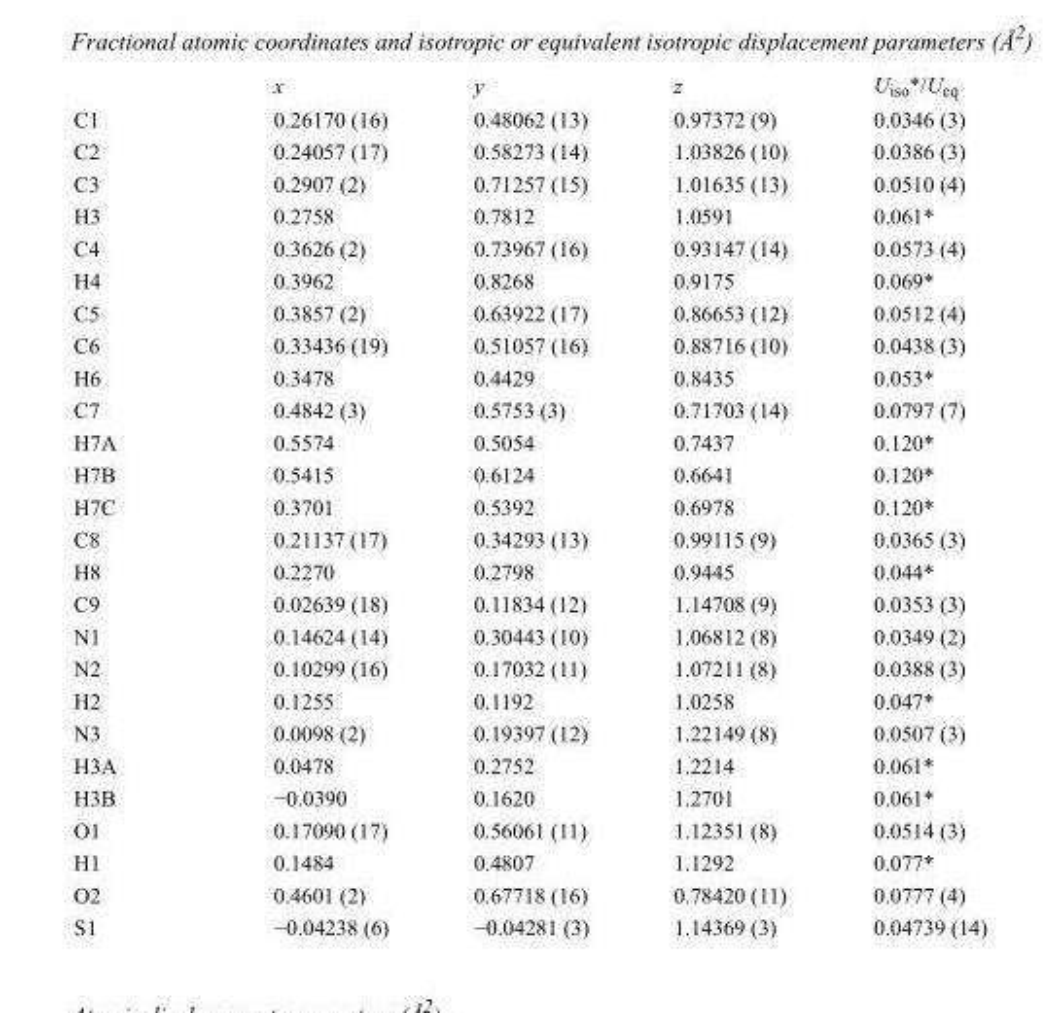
<table><thead><tr><td></td><td>x</td><td>y</td><td>z</td><td>U<sub>iso</sub>*/U<sub>eq</sub></td></tr></thead><tbody><tr><td>C1</td><td>0.26170 (16)</td><td>0.48062 (13)</td><td>0.97372 (9)</td><td>0.0346 (3)</td></tr><tr><td>C2</td><td>0.24057 (17)</td><td>0.58273 (14)</td><td>1.03826 (10)</td><td>0.0386 (3)</td></tr><tr><td>C3</td><td>0.2907 (2)</td><td>0.71257 (15)</td><td>1.01635 (13)</td><td>0.0510 (4)</td></tr><tr><td>H3</td><td>0.2758</td><td>0.7812</td><td>1.0591</td><td>0.061*</td></tr><tr><td>C4</td><td>0.3626 (2)</td><td>0.73967 (16)</td><td>0.93147 (14)</td><td>0.0573 (4)</td></tr><tr><td>H4</td><td>0.3962</td><td>0.8268</td><td>0.9175</td><td>0.069*</td></tr><tr><td>C5</td><td>0.3857 (2)</td><td>0.63922 (17)</td><td>0.86653 (12)</td><td>0.0512 (4)</td></tr><tr><td>C6</td><td>0.33436 (19)</td><td>0.51057 (16)</td><td>0.88716 (10)</td><td>0.0438 (3)</td></tr><tr><td>H6</td><td>0.3478</td><td>0.4429</td><td>0.8435</td><td>0.053*</td></tr><tr><td>C7</td><td>0.4842 (3)</td><td>0.5753 (3)</td><td>0.71703 (14)</td><td>0.0797 (7)</td></tr><tr><td>H7A</td><td>0.5574</td><td>0.5054</td><td>0.7437</td><td>0.120*</td></tr><tr><td>H7B</td><td>0.5415</td><td>0.6124</td><td>0.6641</td><td>0.120*</td></tr><tr><td>H7C</td><td>0.3701</td><td>0.5392</td><td>0.6978</td><td>0.120*</td></tr><tr><td>C8</td><td>0.21137 (17)</td><td>0.34293 (13)</td><td>0.99115 (9)</td><td>0.0365 (3)</td></tr><tr><td>H8</td><td>0.2270</td><td>0.2798</td><td>0.9445</td><td>0.044*</td></tr><tr><td>C9</td><td>0.02639 (18)</td><td>0.11834 (12)</td><td>1.14708 (9)</td><td>0.0353 (3)</td></tr><tr><td>N1</td><td>0.14624 (14)</td><td>0.30443 (10)</td><td>1.06812 (8)</td><td>0.0349 (2)</td></tr><tr><td>N2</td><td>0.10299 (16)</td><td>0.17032 (11)</td><td>1.07211 (8)</td><td>0.0388 (3)</td></tr><tr><td>H2</td><td>0.1255</td><td>0.1192</td><td>1.0258</td><td>0.047*</td></tr><tr><td>N3</td><td>0.0098 (2)</td><td>0.19397 (12)</td><td>1.22149 (8)</td><td>0.0507 (3)</td></tr><tr><td>H3A</td><td>0.0478</td><td>0.2752</td><td>1.2214</td><td>0.061*</td></tr><tr><td>H3B</td><td>−0.0390</td><td>0.1620</td><td>1.2701</td><td>0.061*</td></tr><tr><td>O1</td><td>0.17090 (17)</td><td>0.56061 (11)</td><td>1.12351 (8)</td><td>0.0514 (3)</td></tr><tr><td>H1</td><td>0.1484</td><td>0.4807</td><td>1.1292</td><td>0.077*</td></tr><tr><td>O2</td><td>0.4601 (2)</td><td>0.67718 (16)</td><td>0.78420 (11)</td><td>0.0777 (4)</td></tr><tr><td>S1</td><td>−0.04238 (6)</td><td>−0.04281 (3)</td><td>1.14369 (3)</td><td>0.04739 (14)</td></tr></tbody></table>